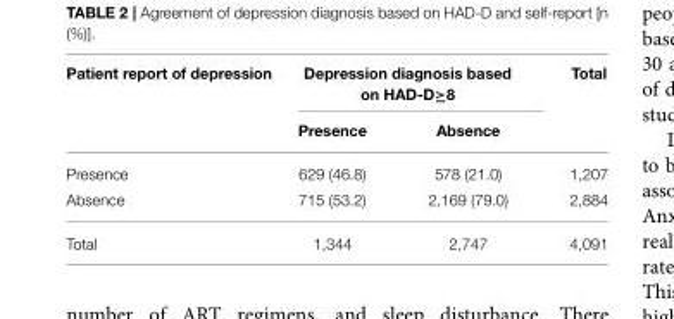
<table><thead><tr><td rowspan="2">Patient report of depression</td><td colspan="2">Depression diagnosis based on HAD-D≥8</td><td rowspan="2">Total</td></tr><tr><td>Presence</td><td>Absence</td></tr></thead><tbody><tr><td>Presence</td><td>629 (46.8)</td><td>578 (21.0)</td><td>1,207</td></tr><tr><td>Absence</td><td>715 (53.2)</td><td>2,169 (79.0)</td><td>2,884</td></tr><tr><td>Total</td><td>1,344</td><td>2,747</td><td>4,091</td></tr></tbody></table>